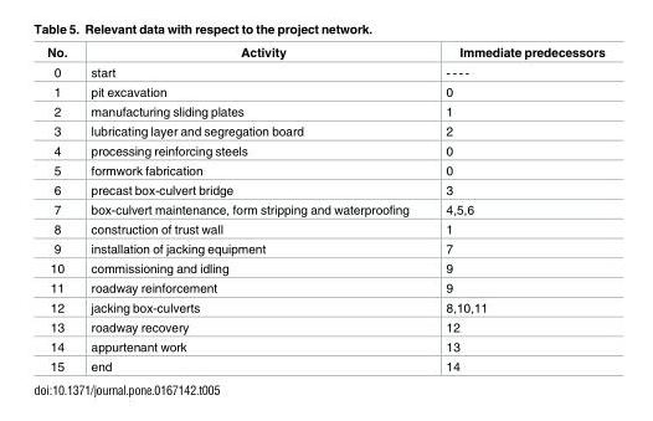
<table><thead><tr><td>No.</td><td>Activity</td><td>Immediate predecessors</td></tr></thead><tbody><tr><td>0</td><td>start</td><td>- - - -</td></tr><tr><td>1</td><td>pit excavation</td><td>0</td></tr><tr><td>2</td><td>manufacturing sliding plates</td><td>1</td></tr><tr><td>3</td><td>lubricating layer and segregation board</td><td>2</td></tr><tr><td>4</td><td>processing reinforcing steels</td><td>0</td></tr><tr><td>5</td><td>formwork fabrication</td><td>0</td></tr><tr><td>6</td><td>precast box-culvert bridge</td><td>3</td></tr><tr><td>7</td><td>box-culvert maintenance, form stripping and waterproofing</td><td>4,5,6</td></tr><tr><td>8</td><td>construction of trust wall</td><td>1</td></tr><tr><td>9</td><td>installation of jacking equipment</td><td>7</td></tr><tr><td>10</td><td>commissioning and idling</td><td>9</td></tr><tr><td>11</td><td>roadway reinforcement</td><td>9</td></tr><tr><td>12</td><td>jacking box-culverts</td><td>8,10,11</td></tr><tr><td>13</td><td>roadway recovery</td><td>12</td></tr><tr><td>14</td><td>appurtenant work</td><td>13</td></tr><tr><td>15</td><td>end</td><td>14</td></tr></tbody></table>